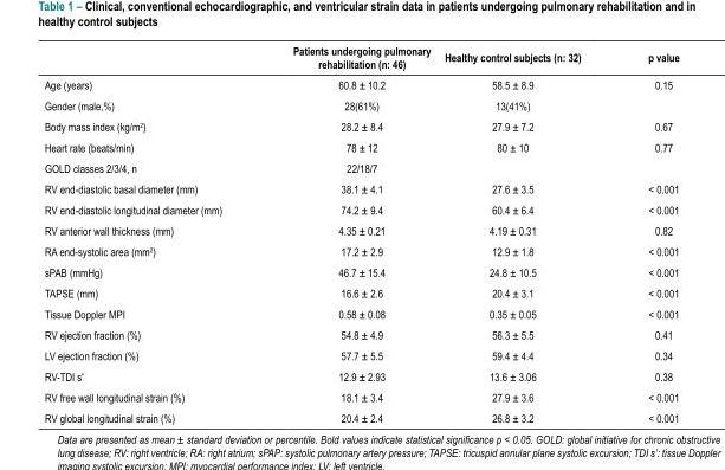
<table><thead><tr><td></td><td>Patients undergoing pulmonary rehabilitation (n: 46)</td><td>Healthy control subjects (n: 32)</td><td>p value</td></tr></thead><tbody><tr><td>Age (years)</td><td>60.8 ± 10.2</td><td>58.5 ± 8.9</td><td>0.15</td></tr><tr><td>Gender (male,%)</td><td>28(61%)</td><td>13(41%)</td><td></td></tr><tr><td>Body mass index (kg/m<sup>2</sup>)</td><td>28.2 ± 8.4</td><td>27.9 ± 7.2</td><td>0.67</td></tr><tr><td>Heart rate (beats/min)</td><td>78 ± 12</td><td>80 ± 10</td><td>0.77</td></tr><tr><td>GOLD classes 2/3/4, n</td><td>22/18/7</td><td></td><td></td></tr><tr><td>RV end-diastolic basal diameter (mm)</td><td>38.1 ± 4.1</td><td>27.6 ± 3.5</td><td>&lt; 0.001</td></tr><tr><td>RV end-diastolic longitudinal diameter (mm)</td><td>74.2 ± 9.4</td><td>60.4 ± 6.4</td><td>&lt; 0.001</td></tr><tr><td>RV anterior wall thickness (mm)</td><td>4.35 ± 0.21</td><td>4.19 ± 0.31</td><td>0.82</td></tr><tr><td>RA end-systolic area (mm<sup>2</sup>)</td><td>17.2 ± 2.9</td><td>12.9 ± 1.8</td><td>&lt; 0.001</td></tr><tr><td>sPAB (mmHg)</td><td>46.7 ± 15.4</td><td>24.8 ± 10.5</td><td>&lt; 0.001</td></tr><tr><td>TAPSE (mm)</td><td>16.6 ± 2.6</td><td>20.4 ± 3.1</td><td>&lt; 0.001</td></tr><tr><td>Tissue Doppler MPI</td><td>0.58 ± 0.08</td><td>0.35 ± 0.05</td><td>&lt; 0.001</td></tr><tr><td>RV ejection fraction (%)</td><td>54.8 ± 4.9</td><td>56.3 ± 5.5</td><td>0.41</td></tr><tr><td>LV ejection fraction (%)</td><td>57.7 ± 5.5</td><td>59.4 ± 4.4</td><td>0.34</td></tr><tr><td>RV-TDI s&#x27;</td><td>12.9 ± 2.93</td><td>13.6 ± 3.06</td><td>0.38</td></tr><tr><td>RV free wall longitudinal strain (%)</td><td>18.1 ± 3.4</td><td>27.9 ± 3.6</td><td>&lt; 0.001</td></tr><tr><td>RV global longitudinal strain (%)</td><td>20.4 ± 2.4</td><td>26.8 ± 3.2</td><td>&lt; 0.001</td></tr></tbody></table>